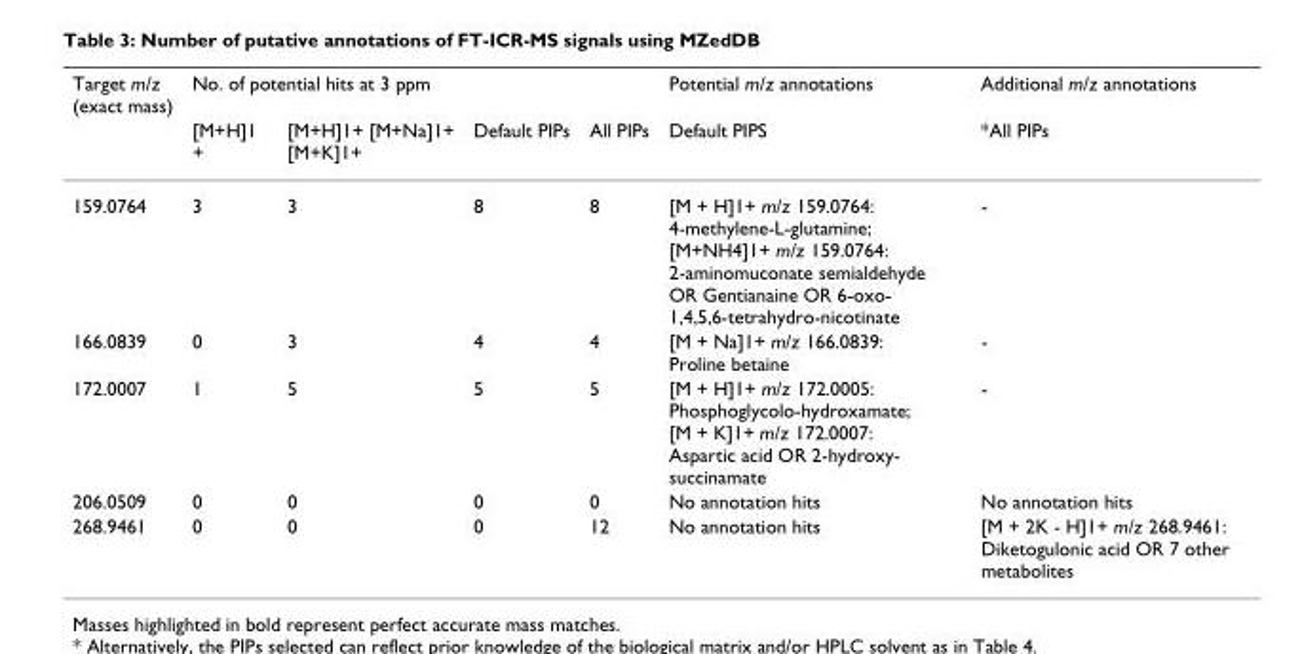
<table><thead><tr><td rowspan="2">Target m/z (exact mass)</td><td colspan="4">No. of potential hits at 3 ppm</td><td rowspan="2">Potential m/z annotations Default PIPS</td><td rowspan="2">Additional m/z annotations *All PIPs</td></tr><tr><td>[M+H]1 +</td><td>[M+H]1+ [M+Na]1+ [M+K]1+</td><td>Default PIPs</td><td>All PIPs</td></tr></thead><tbody><tr><td>159.0764</td><td>3</td><td>3</td><td>8</td><td>8</td><td>[M + H]1+ m/z 159.0764: 4-methylene-L-glutamine; [M+NH4]1+ m/z 159.0764: 2-aminomuconate semialdehyde OR Gentianaine OR 6-oxo- 1,4,5,6-tetrahydro-nicotinate</td><td>-</td></tr><tr><td>166.0839</td><td>0</td><td>3</td><td>4</td><td>4</td><td>[M + Na]1+ m/z 166.0839: Proline betaine</td><td>-</td></tr><tr><td>172.0007</td><td>1</td><td>5</td><td>5</td><td>5</td><td>[M + H]1+ m/z 172.0005: Phosphoglycolo-hydroxamate; [M + K]1+ m/z 172.0007: Aspartic acid OR 2-hydroxy- succinamate</td><td>-</td></tr><tr><td>206.0509</td><td>0</td><td>0</td><td>0</td><td>0</td><td>No annotation hits</td><td>No annotation hits</td></tr><tr><td>268.9461</td><td>0</td><td>0</td><td>0</td><td>12</td><td>No annotation hits</td><td>[M + 2K - H]1+ m/z 268.9461: Diketogulonic acid OR 7 other metabolites</td></tr></tbody></table>